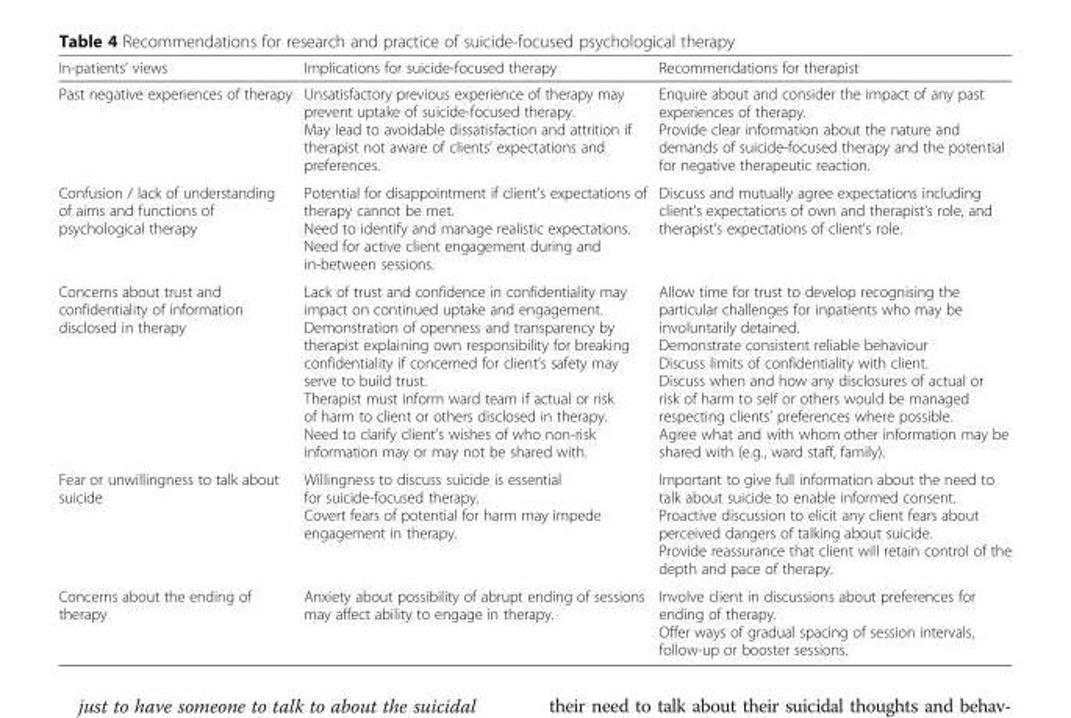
<table><thead><tr><td>In-patients’ views</td><td>Implications for suicide-focused therapy</td><td>Recommendations for therapist</td></tr></thead><tbody><tr><td>Past negative experiences of therapy</td><td>Unsatisfactory previous experience of therapy may prevent uptake of suicide-focused therapy. May lead to avoidable dissatisfaction and attrition if therapist not aware of clients’ expectations and preferences.</td><td>Enquire about and consider the impact of any past experiences of therapy. Provide clear information about the nature and demands of suicide-focused therapy and the potential for negative therapeutic reaction.</td></tr><tr><td>Confusion / lack of understanding of aims and functions of psychological therapy</td><td>Potential for disappointment if client’s expectations of therapy cannot be met. Need to identify and manage realistic expectations. Need for active client engagement during and in-between sessions.</td><td>Discuss and mutually agree expectations including client’s expectations of own and therapist’s role, and therapist’s expectations of client’s role.</td></tr><tr><td>Concerns about trust and confidentiality of information disclosed in therapy</td><td>Lack of trust and confidence in confidentiality may impact on continued uptake and engagement. Demonstration of openness and transparency by therapist explaining own responsibility for breaking confidentiality if concerned for client’s safety may serve to build trust. Therapist must inform ward team if actual or risk of harm to client or others disclosed in therapy. Need to clarify client’s wishes of who non-risk information may or may not be shared with.</td><td>Allow time for trust to develop recognising the particular challenges for inpatients who may be involuntarily detained. Demonstrate consistent reliable behaviour Discuss limits of confidentiality with client. Discuss when and how any disclosures of actual or risk of harm to self or others would be managed respecting clients’ preferences where possible. Agree what and with whom other information may be shared with (e.g., ward staff, family).</td></tr><tr><td>Fear or unwillingness to talk about suicide</td><td>Willingness to discuss suicide is essential for suicide-focused therapy. Covert fears of potential for harm may impede engagement in therapy.</td><td>Important to give full information about the need to talk about suicide to enable informed consent. Proactive discussion to elicit any client fears about perceived dangers of talking about suicide. Provide reassurance that client will retain control of the depth and pace of therapy.</td></tr><tr><td>Concerns about the ending of therapy</td><td>Anxiety about possibility of abrupt ending of sessions may affect ability to engage in therapy.</td><td>Involve client in discussions about preferences for ending of therapy. Offer ways of gradual spacing of session intervals, follow-up or booster sessions.</td></tr></tbody></table>